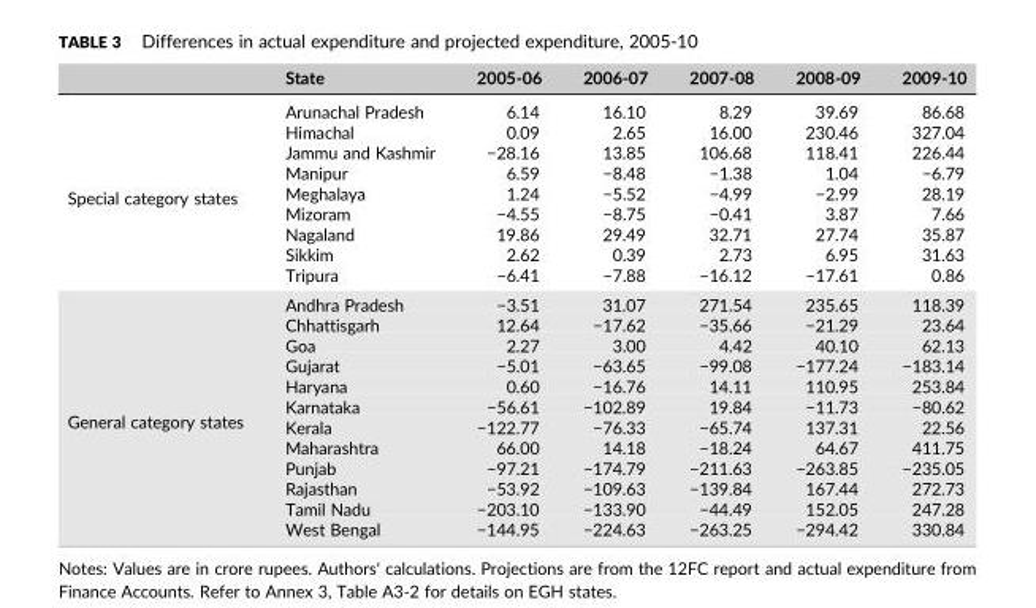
<table><thead><tr><td></td><td>State</td><td>2005‐06</td><td>2006‐07</td><td>2007‐08</td><td>2008‐09</td><td>2009‐10</td></tr></thead><tbody><tr><td rowspan="9">Special category states</td><td>Arunachal Pradesh</td><td>6.14</td><td>16.10</td><td>8.29</td><td>39.69</td><td>86.68</td></tr><tr><td>Himachal</td><td>0.09</td><td>2.65</td><td>16.00</td><td>230.46</td><td>327.04</td></tr><tr><td>Jammu and Kashmir</td><td>−28.16</td><td>13.85</td><td>106.68</td><td>118.41</td><td>226.44</td></tr><tr><td>Manipur</td><td>6.59</td><td>−8.48</td><td>−1.38</td><td>1.04</td><td>−6.79</td></tr><tr><td>Meghalaya</td><td>1.24</td><td>−5.52</td><td>−4.99</td><td>−2.99</td><td>28.19</td></tr><tr><td>Mizoram</td><td>−4.55</td><td>−8.75</td><td>−0.41</td><td>3.87</td><td>7.66</td></tr><tr><td>Nagaland</td><td>19.86</td><td>29.49</td><td>32.71</td><td>27.74</td><td>35.87</td></tr><tr><td>Sikkim</td><td>2.62</td><td>0.39</td><td>2.73</td><td>6.95</td><td>31.63</td></tr><tr><td>Tripura</td><td>−6.41</td><td>−7.88</td><td>−16.12</td><td>−17.61</td><td>0.86</td></tr><tr><td rowspan="12">General category states</td><td>Andhra Pradesh</td><td>−3.51</td><td>31.07</td><td>271.54</td><td>235.65</td><td>118.39</td></tr><tr><td>Chhattisgarh</td><td>12.64</td><td>−17.62</td><td>−35.66</td><td>−21.29</td><td>23.64</td></tr><tr><td>Goa</td><td>2.27</td><td>3.00</td><td>4.42</td><td>40.10</td><td>62.13</td></tr><tr><td>Gujarat</td><td>−5.01</td><td>−63.65</td><td>−99.08</td><td>−177.24</td><td>−183.14</td></tr><tr><td>Haryana</td><td>0.60</td><td>−16.76</td><td>14.11</td><td>110.95</td><td>253.84</td></tr><tr><td>Karnataka</td><td>−56.61</td><td>−102.89</td><td>19.84</td><td>−11.73</td><td>−80.62</td></tr><tr><td>Kerala</td><td>−122.77</td><td>−76.33</td><td>−65.74</td><td>137.31</td><td>22.56</td></tr><tr><td>Maharashtra</td><td>66.00</td><td>14.18</td><td>−18.24</td><td>64.67</td><td>411.75</td></tr><tr><td>Punjab</td><td>−97.21</td><td>−174.79</td><td>−211.63</td><td>−263.85</td><td>−235.05</td></tr><tr><td>Rajasthan</td><td>−53.92</td><td>−109.63</td><td>−139.84</td><td>167.44</td><td>272.73</td></tr><tr><td>Tamil Nadu</td><td>−203.10</td><td>−133.90</td><td>−44.49</td><td>152.05</td><td>247.28</td></tr><tr><td>West Bengal</td><td>−144.95</td><td>−224.63</td><td>−263.25</td><td>−294.42</td><td>330.84</td></tr></tbody></table>